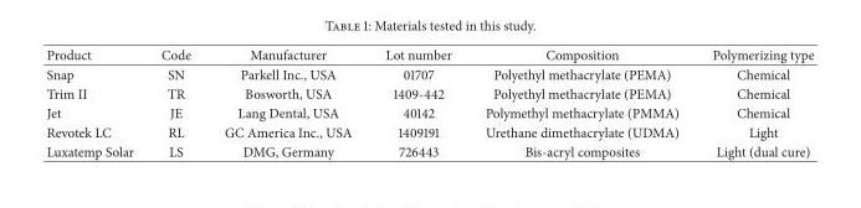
<table><thead><tr><td>Product</td><td>Code</td><td>Manufacturer</td><td>Lot number</td><td>Composition</td><td>Polymerizing type</td></tr></thead><tbody><tr><td>Snap</td><td>SN</td><td>Parkell Inc., USA</td><td>01707</td><td>Polyethyl methacrylate (PEMA)</td><td>Chemical</td></tr><tr><td>Trim II</td><td>TR</td><td>Bosworth, USA</td><td>1409-442</td><td>Polyethyl methacrylate (PEMA)</td><td>Chemical</td></tr><tr><td>Jet</td><td>JE</td><td>Lang Dental, USA</td><td>40142</td><td>Polymethyl methacrylate (PMMA)</td><td>Chemical</td></tr><tr><td>Revotek LC</td><td>RL</td><td>GC America Inc., USA</td><td>1409191</td><td>Urethane dimethacrylate (UDMA)</td><td>Light</td></tr><tr><td>Luxatemp Solar</td><td>LS</td><td>DMG, Germany</td><td>726443</td><td>Bis-acryl composites</td><td>Light (dual cure)</td></tr></tbody></table>